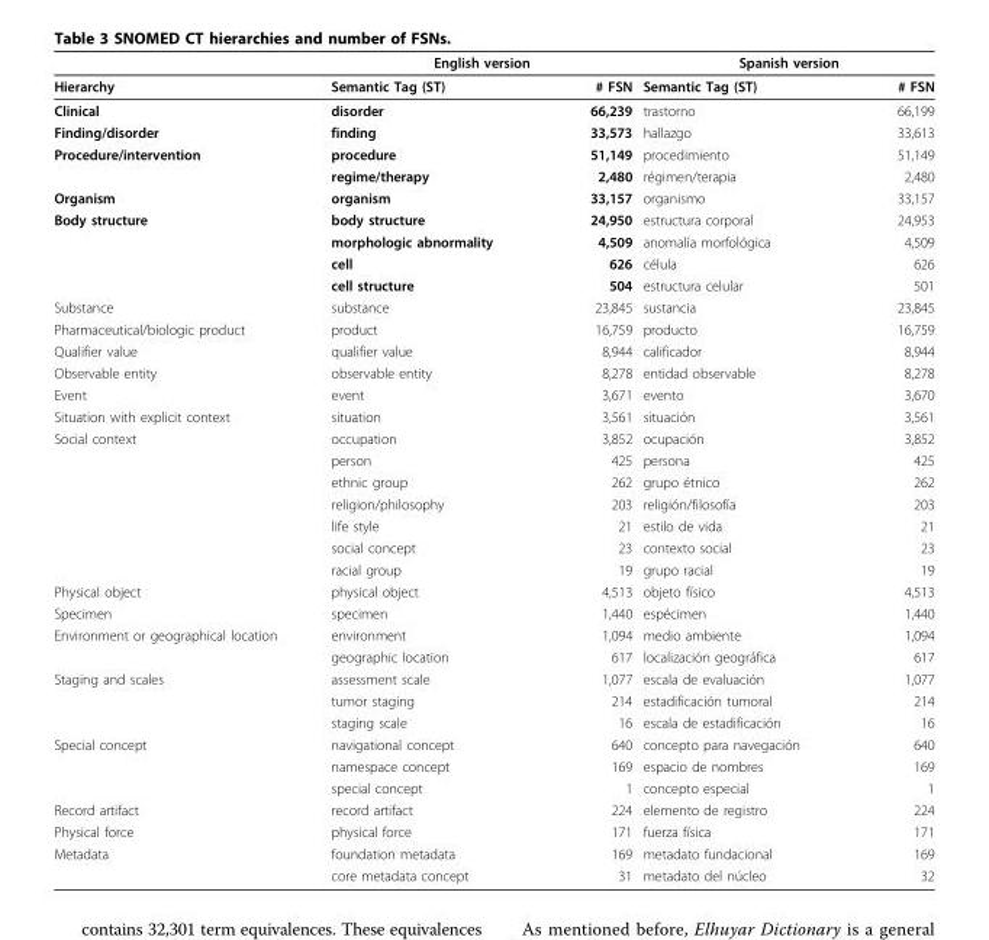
<table><thead><tr><td rowspan="2">Hierarchy</td><td colspan="2">English version</td><td colspan="2">Spanish version</td></tr><tr><td>Semantic Tag (ST)</td><td># FSN</td><td>Semantic Tag (ST)</td><td># FSN</td></tr></thead><tbody><tr><td>Clinical</td><td>disorder</td><td>66,239</td><td>trastorno</td><td>66,199</td></tr><tr><td>Finding/disorder</td><td>finding</td><td>33,573</td><td>hallazgo</td><td>33,613</td></tr><tr><td rowspan="2">Procedure/intervention</td><td>procedure</td><td>51,149</td><td>procedimiento</td><td>51,149</td></tr><tr><td>regime/therapy</td><td>2,480</td><td>régimen/terapia</td><td>2,480</td></tr><tr><td>Organism</td><td>organism</td><td>33,157</td><td>organismo</td><td>33,157</td></tr><tr><td rowspan="4">Body structure</td><td>body structure</td><td>24,950</td><td>estructura corporal</td><td>24,953</td></tr><tr><td>morphologic abnormality</td><td>4,509</td><td>anomalía morfológica</td><td>4,509</td></tr><tr><td>cell</td><td>626</td><td>célula</td><td>626</td></tr><tr><td>cell structure</td><td>504</td><td>estructura celular</td><td>501</td></tr><tr><td>Substance</td><td>substance</td><td>23,845</td><td>sustancia</td><td>23,845</td></tr><tr><td>Pharmaceutical/biologic product</td><td>product</td><td>16,759</td><td>producto</td><td>16,759</td></tr><tr><td>Qualifier value</td><td>qualifier value</td><td>8,944</td><td>calificador</td><td>8,944</td></tr><tr><td>Observable entity</td><td>observable entity</td><td>8,278</td><td>entidad observable</td><td>8,278</td></tr><tr><td>Event</td><td>event</td><td>3,671</td><td>evento</td><td>3,670</td></tr><tr><td>Situation with explicit context</td><td>situation</td><td>3,561</td><td>situación</td><td>3,561</td></tr><tr><td rowspan="7">Social context</td><td>occupation</td><td>3,852</td><td>ocupación</td><td>3,852</td></tr><tr><td>person</td><td>425</td><td>persona</td><td>425</td></tr><tr><td>ethnic group</td><td>262</td><td>grupo étnico</td><td>262</td></tr><tr><td>religion/philosophy</td><td>203</td><td>religión/filosofía</td><td>203</td></tr><tr><td>life style</td><td>21</td><td>estilo de vida</td><td>21</td></tr><tr><td>social concept</td><td>23</td><td>contexto social</td><td>23</td></tr><tr><td>racial group</td><td>19</td><td>grupo racial</td><td>19</td></tr><tr><td>Physical object</td><td>physical object</td><td>4,513</td><td>objeto físico</td><td>4,513</td></tr><tr><td>Specimen</td><td>specimen</td><td>1,440</td><td>espécimen</td><td>1,440</td></tr><tr><td rowspan="2">Environment or geographical location</td><td>environment</td><td>1,094</td><td>medio ambiente</td><td>1,094</td></tr><tr><td>geographic location</td><td>617</td><td>localización geográfica</td><td>617</td></tr><tr><td rowspan="3">Staging and scales</td><td>assessment scale</td><td>1,077</td><td>escala de evaluación</td><td>1,077</td></tr><tr><td>tumor staging</td><td>214</td><td>estadificación tumoral</td><td>214</td></tr><tr><td>staging scale</td><td>16</td><td>escala de estadificación</td><td>16</td></tr><tr><td rowspan="3">Special concept</td><td>navigational concept</td><td>640</td><td>concepto para navegación</td><td>640</td></tr><tr><td>namespace concept</td><td>169</td><td>espacio de nombres</td><td>169</td></tr><tr><td>special concept</td><td>1</td><td>concepto especial</td><td>1</td></tr><tr><td>Record artifact</td><td>record artifact</td><td>224</td><td>elemento de registro</td><td>224</td></tr><tr><td>Physical force</td><td>physical force</td><td>171</td><td>fuerza física</td><td>171</td></tr><tr><td rowspan="2">Metadata</td><td>foundation metadata</td><td>169</td><td>metadato fundacional</td><td>169</td></tr><tr><td>core metadata concept</td><td>31</td><td>metadato del núcleo</td><td>32</td></tr></tbody></table>